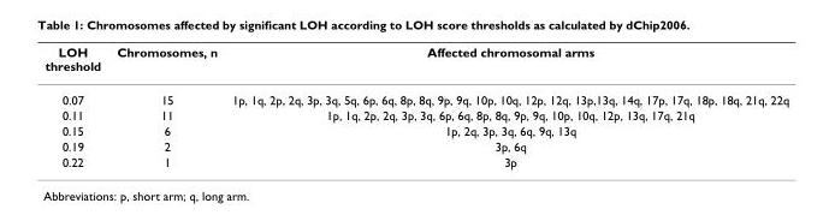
<table><thead><tr><td>LOH threshold</td><td>Chromosomes, n</td><td>Affected chromosomal arms</td></tr></thead><tbody><tr><td>0.07</td><td>15</td><td>1p, 1q, 2p, 2q, 3p, 3q, 5q, 6p, 6q, 8p, 8q, 9p, 9q, 10p, 10q, 12p, 12q, 13p,13q, 14q, 17p, 17q, 18p, 18q, 21q, 22q</td></tr><tr><td>0.11</td><td>11</td><td>1p, 1q, 2p, 2q, 3p, 3q, 6p, 6q, 8p, 8q, 9p, 9q, 10p, 10q, 12p, 13q, 17q, 21q</td></tr><tr><td>0.15</td><td>6</td><td>1p, 2q, 3p, 3q, 6q, 9q, 13q</td></tr><tr><td>0.19</td><td>2</td><td>3p, 6q</td></tr><tr><td>0.22</td><td>1</td><td>3p</td></tr></tbody></table>